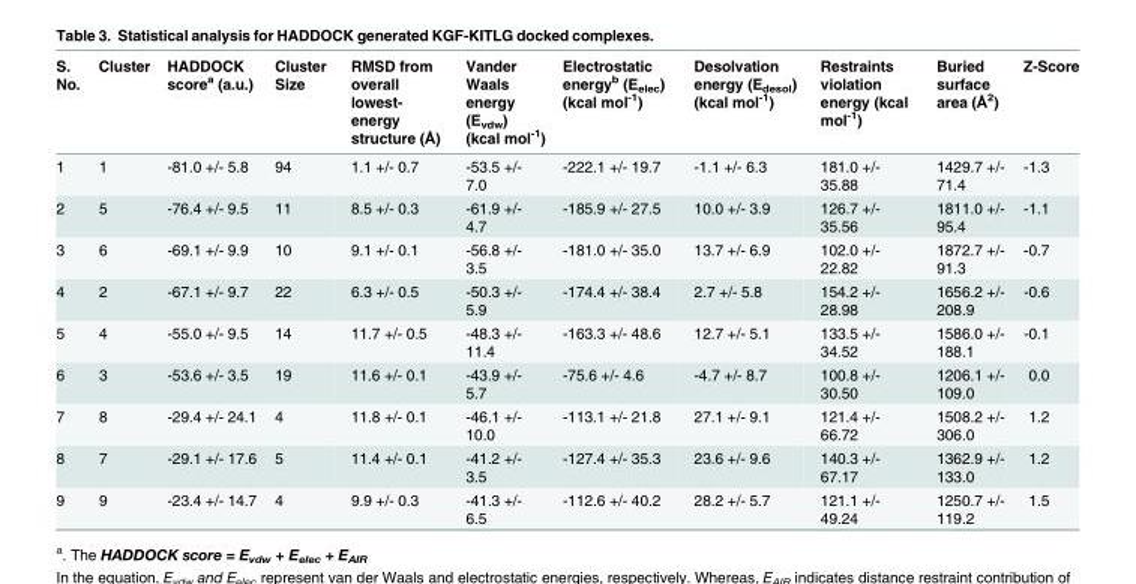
<table><thead><tr><td>S. No.</td><td>Cluster</td><td>HADDOCK score<sup>a</sup> (a.u.)</td><td>Cluster Size</td><td>RMSD from overall lowest- energy structure (Å)</td><td>Vander Waals energy (E<sub>vdw</sub>) (kcal mol<sup>-1</sup>)</td><td>Electrostatic energy<sup>b</sup> (E<sub>elec</sub>) (kcal mol<sup>-1</sup>)</td><td>Desolvation energy (E<sub>desol</sub>) (kcal mol<sup>-1</sup>)</td><td>Restraints violation energy (kcal mol<sup>-1</sup>)</td><td>Buried surface area (Å<sup>2</sup>)</td><td>Z-Score</td></tr></thead><tbody><tr><td>1</td><td>1</td><td>-81.0 +/- 5.8</td><td>94</td><td>1.1 +/- 0.7</td><td>-53.5 +/- 7.0</td><td>-222.1 +/- 19.7</td><td>-1.1 +/- 6.3</td><td>181.0 +/- 35.88</td><td>1429.7 +/- 71.4</td><td>-1.3</td></tr><tr><td>2</td><td>5</td><td>-76.4 +/- 9.5</td><td>11</td><td>8.5 +/- 0.3</td><td>-61.9 +/- 4.7</td><td>-185.9 +/- 27.5</td><td>10.0 +/- 3.9</td><td>126.7 +/- 35.56</td><td>1811.0 +/- 95.4</td><td>-1.1</td></tr><tr><td>3</td><td>6</td><td>-69.1 +/- 9.9</td><td>10</td><td>9.1 +/- 0.1</td><td>-56.8 +/- 3.5</td><td>-181.0 +/- 35.0</td><td>13.7 +/- 6.9</td><td>102.0 +/- 22.82</td><td>1872.7 +/- 91.3</td><td>-0.7</td></tr><tr><td>4</td><td>2</td><td>-67.1 +/- 9.7</td><td>22</td><td>6.3 +/- 0.5</td><td>-50.3 +/- 5.9</td><td>-174.4 +/- 38.4</td><td>2.7 +/- 5.8</td><td>154.2 +/- 28.98</td><td>1656.2 +/- 208.9</td><td>-0.6</td></tr><tr><td>5</td><td>4</td><td>-55.0 +/- 9.5</td><td>14</td><td>11.7 +/- 0.5</td><td>-48.3 +/- 11.4</td><td>-163.3 +/- 48.6</td><td>12.7 +/- 5.1</td><td>133.5 +/- 34.52</td><td>1586.0 +/- 188.1</td><td>-0.1</td></tr><tr><td>6</td><td>3</td><td>-53.6 +/- 3.5</td><td>19</td><td>11.6 +/- 0.1</td><td>-43.9 +/- 5.7</td><td>-75.6 +/- 4.6</td><td>-4.7 +/- 8.7</td><td>100.8 +/- 30.50</td><td>1206.1 +/- 109.0</td><td>0.0</td></tr><tr><td>7</td><td>8</td><td>-29.4 +/- 24.1</td><td>4</td><td>11.8 +/- 0.1</td><td>-46.1 +/- 10.0</td><td>-113.1 +/- 21.8</td><td>27.1 +/- 9.1</td><td>121.4 +/- 66.72</td><td>1508.2 +/- 306.0</td><td>1.2</td></tr><tr><td>8</td><td>7</td><td>-29.1 +/- 17.6</td><td>5</td><td>11.4 +/- 0.1</td><td>-41.2 +/- 3.5</td><td>-127.4 +/- 35.3</td><td>23.6 +/- 9.6</td><td>140.3 +/- 67.17</td><td>1362.9 +/- 133.0</td><td>1.2</td></tr><tr><td>9</td><td>9</td><td>-23.4 +/- 14.7</td><td>4</td><td>9.9 +/- 0.3</td><td>-41.3 +/- 6.5</td><td>-112.6 +/- 40.2</td><td>28.2 +/- 5.7</td><td>121.1 +/- 49.24</td><td>1250.7 +/- 119.2</td><td>1.5</td></tr></tbody></table>